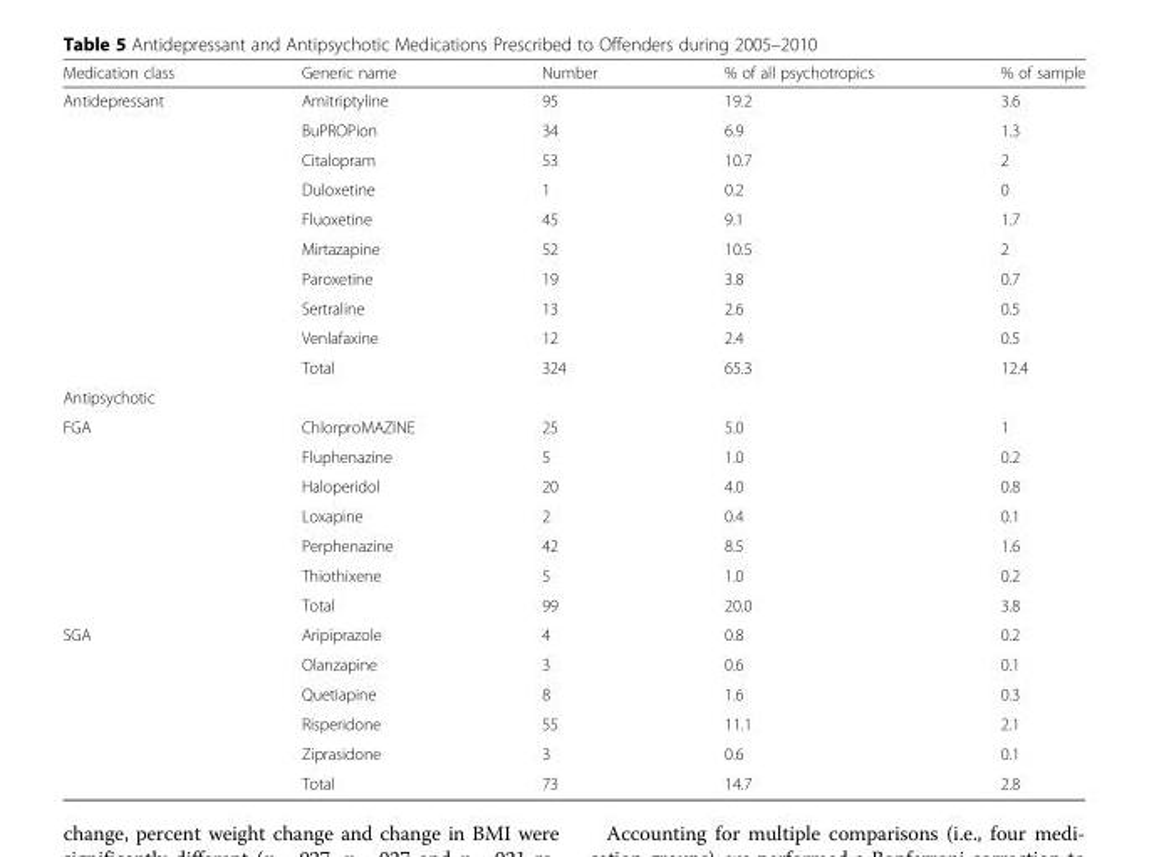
<table><thead><tr><td>Medication class</td><td>Generic name</td><td>Number</td><td>% of all psychotropics</td><td>% of sample</td></tr></thead><tbody><tr><td rowspan="10">Antidepressant</td><td>Amitriptyline</td><td>95</td><td>19.2</td><td>3.6</td></tr><tr><td>BuPROPion</td><td>34</td><td>6.9</td><td>1.3</td></tr><tr><td>Citalopram</td><td>53</td><td>10.7</td><td>2</td></tr><tr><td>Duloxetine</td><td>1</td><td>0.2</td><td>0</td></tr><tr><td>Fluoxetine</td><td>45</td><td>9.1</td><td>1.7</td></tr><tr><td>Mirtazapine</td><td>52</td><td>10.5</td><td>2</td></tr><tr><td>Paroxetine</td><td>19</td><td>3.8</td><td>0.7</td></tr><tr><td>Sertraline</td><td>13</td><td>2.6</td><td>0.5</td></tr><tr><td>Venlafaxine</td><td>12</td><td>2.4</td><td>0.5</td></tr><tr><td>Total</td><td>324</td><td>65.3</td><td>12.4</td></tr><tr><td colspan="5">Antipsychotic</td></tr><tr><td rowspan="7">FGA</td><td>ChlorproMAZINE</td><td>25</td><td>5.0</td><td>1</td></tr><tr><td>Fluphenazine</td><td>5</td><td>1.0</td><td>0.2</td></tr><tr><td>Haloperidol</td><td>20</td><td>4.0</td><td>0.8</td></tr><tr><td>Loxapine</td><td>2</td><td>0.4</td><td>0.1</td></tr><tr><td>Perphenazine</td><td>42</td><td>8.5</td><td>1.6</td></tr><tr><td>Thiothixene</td><td>5</td><td>1.0</td><td>0.2</td></tr><tr><td>Total</td><td>99</td><td>20.0</td><td>3.8</td></tr><tr><td rowspan="6">SGA</td><td>Aripiprazole</td><td>4</td><td>0.8</td><td>0.2</td></tr><tr><td>Olanzapine</td><td>3</td><td>0.6</td><td>0.1</td></tr><tr><td>Quetiapine</td><td>8</td><td>1.6</td><td>0.3</td></tr><tr><td>Risperidone</td><td>55</td><td>11.1</td><td>2.1</td></tr><tr><td>Ziprasidone</td><td>3</td><td>0.6</td><td>0.1</td></tr><tr><td>Total</td><td>73</td><td>14.7</td><td>2.8</td></tr></tbody></table>